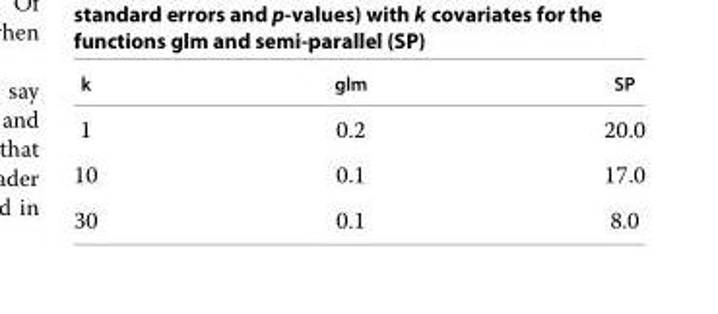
<table><thead><tr><td>k</td><td>glm</td><td>SP</td></tr></thead><tbody><tr><td>1</td><td>0.2</td><td>20.0</td></tr><tr><td>10</td><td>0.1</td><td>17.0</td></tr><tr><td>30</td><td>0.1</td><td>8.0</td></tr></tbody></table>